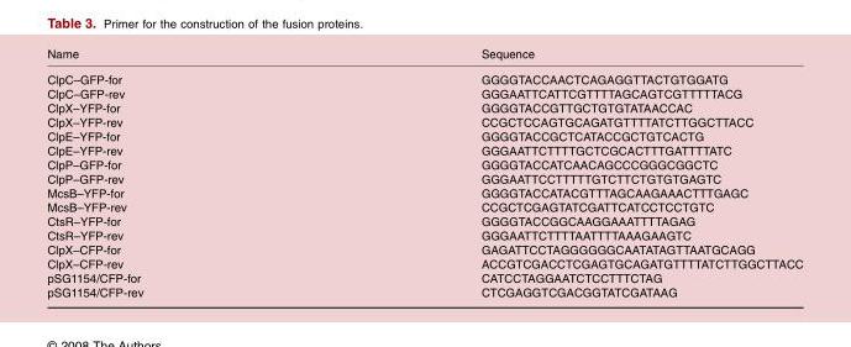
<table><thead><tr><td>Name</td><td>Sequence</td></tr></thead><tbody><tr><td>ClpC–GFP-for</td><td>GGGGTACCAACTCAGAGGTTACTGTGGATG</td></tr><tr><td>ClpC–GFP-rev</td><td>GGGAATTCATTCGTTTTAGCAGTCGTTTTTACG</td></tr><tr><td>ClpX–YFP-for</td><td>GGGGTACCGTTGCTGTGTATAACCAC</td></tr><tr><td>ClpX–YFP-rev</td><td>CCGCTCCAGTGCAGATGTTTTATCTTGGCTTACC</td></tr><tr><td>ClpE–YFP-for</td><td>GGGGTACCGCTCATACCGCTGTCACTG</td></tr><tr><td>ClpE–YFP-rev</td><td>GGGAATTCTTTTGCTCGCACTTTGATTTTATC</td></tr><tr><td>ClpP–GFP-for</td><td>GGGGTACCATCAACAGCCCGGGCGGCTC</td></tr><tr><td>ClpP–GFP-rev</td><td>GGGAATTCCTTTTTGTCTTCTGTGTGAGTC</td></tr><tr><td>McsB–YFP-for</td><td>GGGGTACCATACGTTTAGCAAGAAACTTTGAGC</td></tr><tr><td>McsB–YFP-rev</td><td>CCGCTCGAGTATCGATTCATCCTCCTGTC</td></tr><tr><td>CtsR–YFP-for</td><td>GGGGTACCGGCAAGGAAATTTTAGAG</td></tr><tr><td>CtsR–YFP-rev</td><td>GGGAATTCTTTTAATTTTAAAGAAGTC</td></tr><tr><td>ClpX–CFP-for</td><td>GAGATTCCTAGGGGGGCAATATAGTTAATGCAGG</td></tr><tr><td>ClpX–CFP-rev</td><td>ACCGTCGACCTCGAGTGCAGATGTTTTATCTTGGCTTACC</td></tr><tr><td>pSG1154/CFP-for</td><td>CATCCTAGGAATCTCCTTTCTAG</td></tr><tr><td>pSG1154/CFP-rev</td><td>CTCGAGGTCGACGGTATCGATAAG</td></tr></tbody></table>